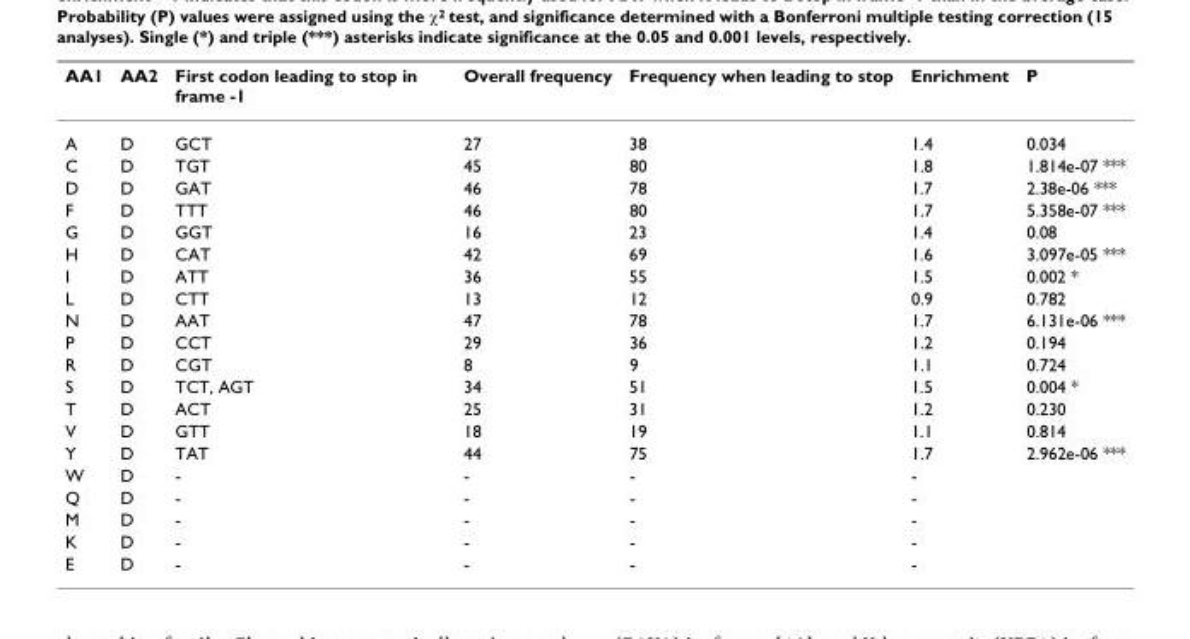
<table><thead><tr><td>AA1</td><td>AA2</td><td>First codon leading to stop in frame -1</td><td>Overall frequency</td><td>Frequency when leading to stop</td><td>Enrichment</td><td>P</td></tr></thead><tbody><tr><td>A</td><td>D</td><td>GCT</td><td>27</td><td>38</td><td>1.4</td><td>0.034</td></tr><tr><td>C</td><td>D</td><td>TGT</td><td>45</td><td>80</td><td>1.8</td><td>1.814e-07 ***</td></tr><tr><td>D</td><td>D</td><td>GAT</td><td>46</td><td>78</td><td>1.7</td><td>2.38e-06 ***</td></tr><tr><td>F</td><td>D</td><td>TTT</td><td>46</td><td>80</td><td>1.7</td><td>5.358e-07 ***</td></tr><tr><td>G</td><td>D</td><td>GGT</td><td>16</td><td>23</td><td>1.4</td><td>0.08</td></tr><tr><td>H</td><td>D</td><td>CAT</td><td>42</td><td>69</td><td>1.6</td><td>3.097e-05 ***</td></tr><tr><td>I</td><td>D</td><td>ATT</td><td>36</td><td>55</td><td>1.5</td><td>0.002 *</td></tr><tr><td>L</td><td>D</td><td>CTT</td><td>13</td><td>12</td><td>0.9</td><td>0.782</td></tr><tr><td>N</td><td>D</td><td>AAT</td><td>47</td><td>78</td><td>1.7</td><td>6.131e-06 ***</td></tr><tr><td>P</td><td>D</td><td>CCT</td><td>29</td><td>36</td><td>1.2</td><td>0.194</td></tr><tr><td>R</td><td>D</td><td>CGT</td><td>8</td><td>9</td><td>1.1</td><td>0.724</td></tr><tr><td>S</td><td>D</td><td>TCT, AGT</td><td>34</td><td>51</td><td>1.5</td><td>0.004 *</td></tr><tr><td>T</td><td>D</td><td>ACT</td><td>25</td><td>31</td><td>1.2</td><td>0.230</td></tr><tr><td>V</td><td>D</td><td>GTT</td><td>18</td><td>19</td><td>1.1</td><td>0.814</td></tr><tr><td>Y</td><td>D</td><td>TAT</td><td>44</td><td>75</td><td>1.7</td><td>2.962e-06 ***</td></tr><tr><td>W</td><td>D</td><td>-</td><td>-</td><td>-</td><td>-</td><td></td></tr><tr><td>Q</td><td>D</td><td>-</td><td>-</td><td>-</td><td>-</td><td></td></tr><tr><td>M</td><td>D</td><td>-</td><td>-</td><td>-</td><td>-</td><td></td></tr><tr><td>K</td><td>D</td><td>-</td><td>-</td><td>-</td><td>-</td><td></td></tr><tr><td>E</td><td>D</td><td>-</td><td>-</td><td>-</td><td>-</td><td></td></tr></tbody></table>